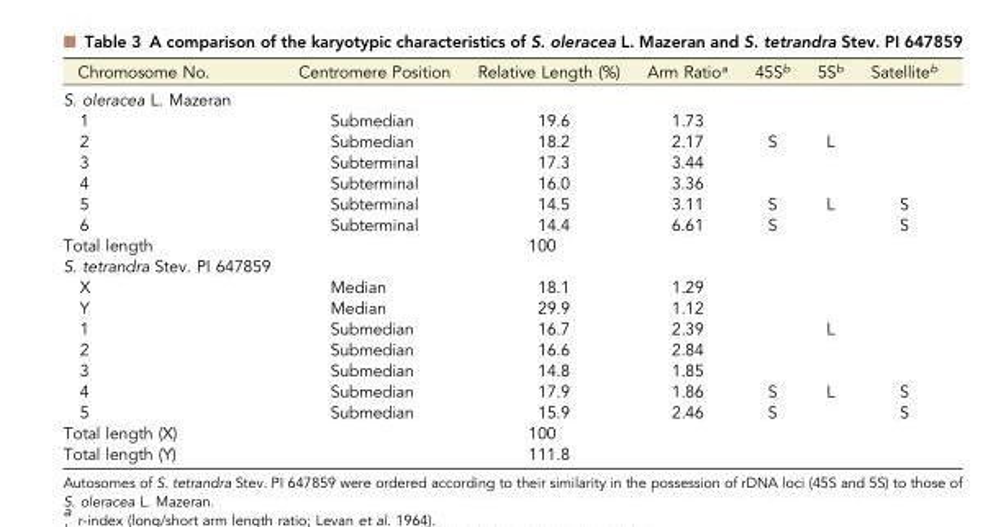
<table><thead><tr><td>Chromosome No.</td><td>Centromere Position</td><td>Relative Length (%)</td><td>Arm Ratio<sup>a</sup></td><td>45S<sup>b</sup></td><td>5S<sup>b</sup></td><td>Satellite<sup>b</sup></td></tr></thead><tbody><tr><td colspan="7">S. oleracea L. Mazeran</td></tr><tr><td>1</td><td>Submedian</td><td>19.6</td><td>1.73</td><td></td><td></td><td></td></tr><tr><td>2</td><td>Submedian</td><td>18.2</td><td>2.17</td><td>S</td><td>L</td><td></td></tr><tr><td>3</td><td>Subterminal</td><td>17.3</td><td>3.44</td><td></td><td></td><td></td></tr><tr><td>4</td><td>Subterminal</td><td>16.0</td><td>3.36</td><td></td><td></td><td></td></tr><tr><td>5</td><td>Subterminal</td><td>14.5</td><td>3.11</td><td>S</td><td>L</td><td>S</td></tr><tr><td>6</td><td>Subterminal</td><td>14.4</td><td>6.61</td><td>S</td><td></td><td>S</td></tr><tr><td>Total length</td><td></td><td>100</td><td></td><td colspan="3"></td></tr><tr><td colspan="7">S. tetrandra Stev. PI 647859</td></tr><tr><td>X</td><td>Median</td><td>18.1</td><td>1.29</td><td></td><td></td><td></td></tr><tr><td>Y</td><td>Median</td><td>29.9</td><td>1.12</td><td></td><td></td><td></td></tr><tr><td>1</td><td>Submedian</td><td>16.7</td><td>2.39</td><td></td><td>L</td><td></td></tr><tr><td>2</td><td>Submedian</td><td>16.6</td><td>2.84</td><td></td><td></td><td></td></tr><tr><td>3</td><td>Submedian</td><td>14.8</td><td>1.85</td><td></td><td></td><td></td></tr><tr><td>4</td><td>Submedian</td><td>17.9</td><td>1.86</td><td>S</td><td>L</td><td>S</td></tr><tr><td>5</td><td>Submedian</td><td>15.9</td><td>2.46</td><td>S</td><td></td><td>S</td></tr><tr><td>Total length (X)</td><td></td><td>100</td><td></td><td colspan="3"></td></tr><tr><td>Total length (Y)</td><td></td><td>111.8</td><td></td><td colspan="3"></td></tr></tbody></table>